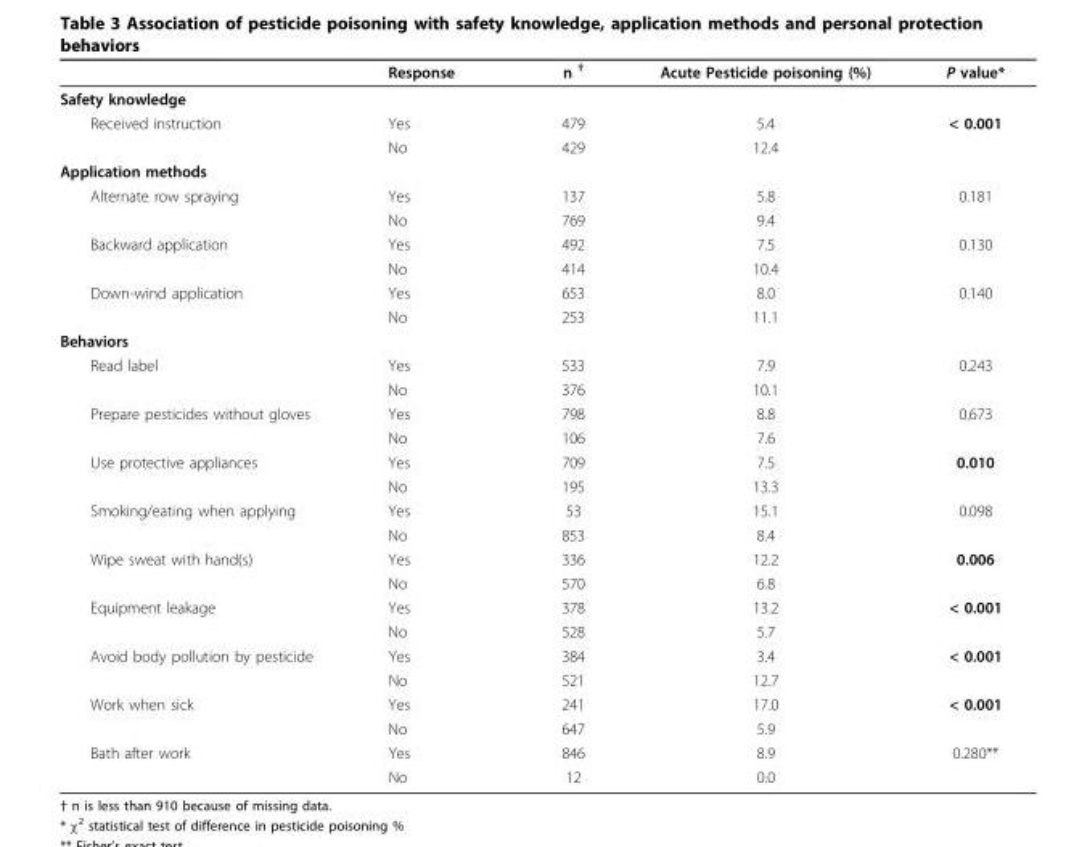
<table><thead><tr><td></td><td>Response</td><td>n <sup>†</sup></td><td>Acute Pesticide poisoning (%)</td><td>P value*</td></tr></thead><tbody><tr><td colspan="5">Safety knowledge</td></tr><tr><td rowspan="2">Received instruction</td><td>Yes</td><td>479</td><td>5.4</td><td>&lt; 0.001</td></tr><tr><td>No</td><td>429</td><td>12.4</td><td></td></tr><tr><td colspan="5">Application methods</td></tr><tr><td rowspan="2">Alternate row spraying</td><td>Yes</td><td>137</td><td>5.8</td><td>0.181</td></tr><tr><td>No</td><td>769</td><td>9.4</td><td></td></tr><tr><td rowspan="2">Backward application</td><td>Yes</td><td>492</td><td>7.5</td><td>0.130</td></tr><tr><td>No</td><td>414</td><td>10.4</td><td></td></tr><tr><td rowspan="2">Down-wind application</td><td>Yes</td><td>653</td><td>8.0</td><td>0.140</td></tr><tr><td>No</td><td>253</td><td>11.1</td><td></td></tr><tr><td colspan="5">Behaviors</td></tr><tr><td rowspan="2">Read label</td><td>Yes</td><td>533</td><td>7.9</td><td>0.243</td></tr><tr><td>No</td><td>376</td><td>10.1</td><td></td></tr><tr><td rowspan="2">Prepare pesticides without gloves</td><td>Yes</td><td>798</td><td>8.8</td><td>0.673</td></tr><tr><td>No</td><td>106</td><td>7.6</td><td></td></tr><tr><td rowspan="2">Use protective appliances</td><td>Yes</td><td>709</td><td>7.5</td><td>0.010</td></tr><tr><td>No</td><td>195</td><td>13.3</td><td></td></tr><tr><td rowspan="2">Smoking/eating when applying</td><td>Yes</td><td>53</td><td>15.1</td><td>0.098</td></tr><tr><td>No</td><td>853</td><td>8.4</td><td></td></tr><tr><td rowspan="2">Wipe sweat with hand(s)</td><td>Yes</td><td>336</td><td>12.2</td><td>0.006</td></tr><tr><td>No</td><td>570</td><td>6.8</td><td></td></tr><tr><td rowspan="2">Equipment leakage</td><td>Yes</td><td>378</td><td>13.2</td><td>&lt; 0.001</td></tr><tr><td>No</td><td>528</td><td>5.7</td><td></td></tr><tr><td rowspan="2">Avoid body pollution by pesticide</td><td>Yes</td><td>384</td><td>3.4</td><td>&lt; 0.001</td></tr><tr><td>No</td><td>521</td><td>12.7</td><td></td></tr><tr><td rowspan="2">Work when sick</td><td>Yes</td><td>241</td><td>17.0</td><td>&lt; 0.001</td></tr><tr><td>No</td><td>647</td><td>5.9</td><td></td></tr><tr><td rowspan="2">Bath after work</td><td>Yes</td><td>846</td><td>8.9</td><td>0.280**</td></tr><tr><td>No</td><td>12</td><td>0.0</td><td></td></tr></tbody></table>